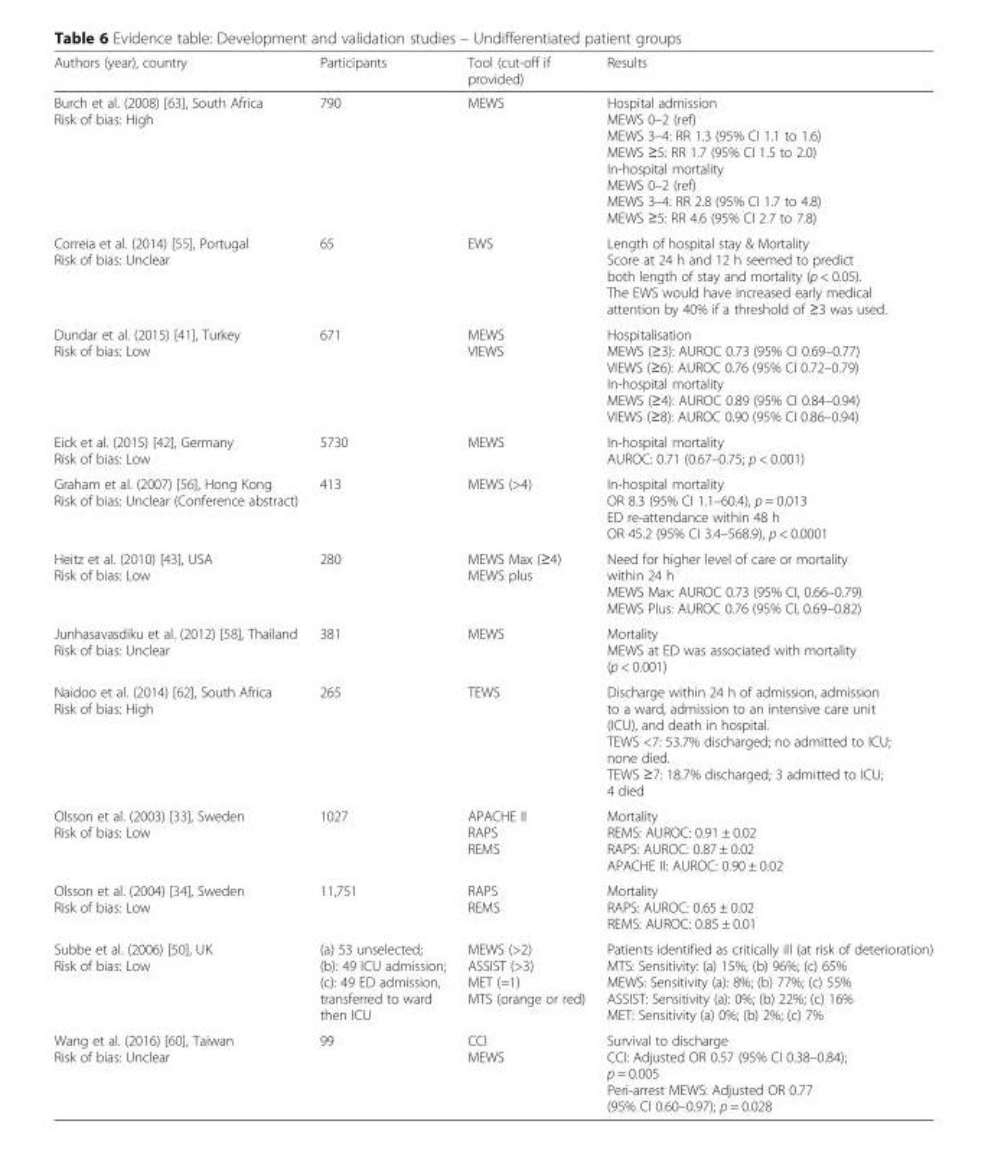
<table><thead><tr><td>Authors (year), country</td><td>Participants</td><td>Tool (cut-off if provided)</td><td>Results</td></tr></thead><tbody><tr><td>Burch et al. (2008) [63], South Africa Risk of bias: High</td><td>790</td><td>MEWS</td><td>Hospital admission MEWS 0–2 (ref) MEWS 3–4: RR 1.3 (95% CI 1.1 to 1.6) MEWS ≥5: RR 1.7 (95% CI 1.5 to 2.0) In-hospital mortality MEWS 0–2 (ref) MEWS 3–4: RR 2.8 (95% CI 1.7 to 4.8) MEWS ≥5: RR 4.6 (95% CI 2.7 to 7.8)</td></tr><tr><td>Correia et al. (2014) [55], Portugal Risk of bias: Unclear</td><td>65</td><td>EWS</td><td>Length of hospital stay &amp; Mortality Score at 24 h and 12 h seemed to predict both length of stay and mortality (p &lt; 0.05). The EWS would have increased early medical attention by 40% if a threshold of ≥3 was used.</td></tr><tr><td>Dundar et al. (2015) [41], Turkey Risk of bias: Low</td><td>671</td><td>MEWS VIEWS</td><td>Hospitalisation MEWS (≥3): AUROC 0.73 (95% CI 0.69–0.77) VIEWS (≥6): AUROC 0.76 (95% CI 0.72–0.79) In-hospital mortality MEWS (≥4): AUROC 0.89 (95% CI 0.84–0.94) VIEWS (≥8): AUROC 0.90 (95% CI 0.86–0.94)</td></tr><tr><td>Eick et al. (2015) [42], Germany Risk of bias: Low</td><td>5730</td><td>MEWS</td><td>In-hospital mortality AUROC: 0.71 (0.67–0.75; p &lt; 0.001)</td></tr><tr><td>Graham et al. (2007) [56], Hong Kong Risk of bias: Unclear (Conference abstract)</td><td>413</td><td>MEWS (&gt;4)</td><td>In-hospital mortality OR 8.3 (95% CI 1.1–60.4), p = 0.013 ED re-attendance within 48 h OR 45.2 (95% CI 3.4–568.9), p &lt; 0.0001</td></tr><tr><td>Heitz et al. (2010) [43], USA Risk of bias: Low</td><td>280</td><td>MEWS Max (≥4) MEWS plus</td><td>Need for higher level of care or mortality within 24 h MEWS Max: AUROC 0.73 (95% CI, 0.66–0.79) MEWS Plus: AUROC 0.76 (95% CI, 0.69–0.82)</td></tr><tr><td>Junhasavasdiku et al. (2012) [58], Thailand Risk of bias: Unclear</td><td>381</td><td>MEWS</td><td>Mortality MEWS at ED was associated with mortality (p &lt; 0.001)</td></tr><tr><td>Naidoo et al. (2014) [62], South Africa Risk of bias: High</td><td>265</td><td>TEWS</td><td>Discharge within 24 h of admission, admission to a ward, admission to an intensive care unit (ICU), and death in hospital. TEWS &lt;7: 53.7% discharged; no admitted to ICU; none died. TEWS ≥7: 18.7% discharged; 3 admitted to ICU; 4 died</td></tr><tr><td>Olsson et al. (2003) [33], Sweden Risk of bias: Low</td><td>1027</td><td>APACHE II RAPS REMS</td><td>Mortality REMS: AUROC: 0.91 ± 0.02 RAPS: AUROC: 0.87 ± 0.02 APACHE II: AUROC: 0.90 ± 0.02</td></tr><tr><td>Olsson et al. (2004) [34], Sweden Risk of bias: Low</td><td>11,751</td><td>RAPS REMS</td><td>Mortality RAPS: AUROC: 0.65 ± 0.02 REMS: AUROC: 0.85 ± 0.01</td></tr><tr><td>Subbe et al. (2006) [50], UK Risk of bias: Low</td><td>(a) 53 unselected; (b): 49 ICU admission; (c): 49 ED admission, transferred to ward then ICU</td><td>MEWS (&gt;2) ASSIST (&gt;3) MET (=1) MTS (orange or red)</td><td>Patients identified as critically ill (at risk of deterioration) MTS: Sensitivity: (a) 15%; (b) 96%; (c) 65% MEWS: Sensitivity (a): 8%; (b) 77%; (c) 55% ASSIST: Sensitivity (a): 0%; (b) 22%; (c) 16% MET: Sensitivity (a) 0%; (b) 2%; (c) 7%</td></tr><tr><td>Wang et al. (2016) [60], Taiwan Risk of bias: Unclear</td><td>99</td><td>CCI MEWS</td><td>Survival to discharge CCI: Adjusted OR 0.57 (95% CI 0.38–0.84); p = 0.005 Peri-arrest MEWS: Adjusted OR 0.77 (95% CI 0.60–0.97); p = 0.028</td></tr></tbody></table>